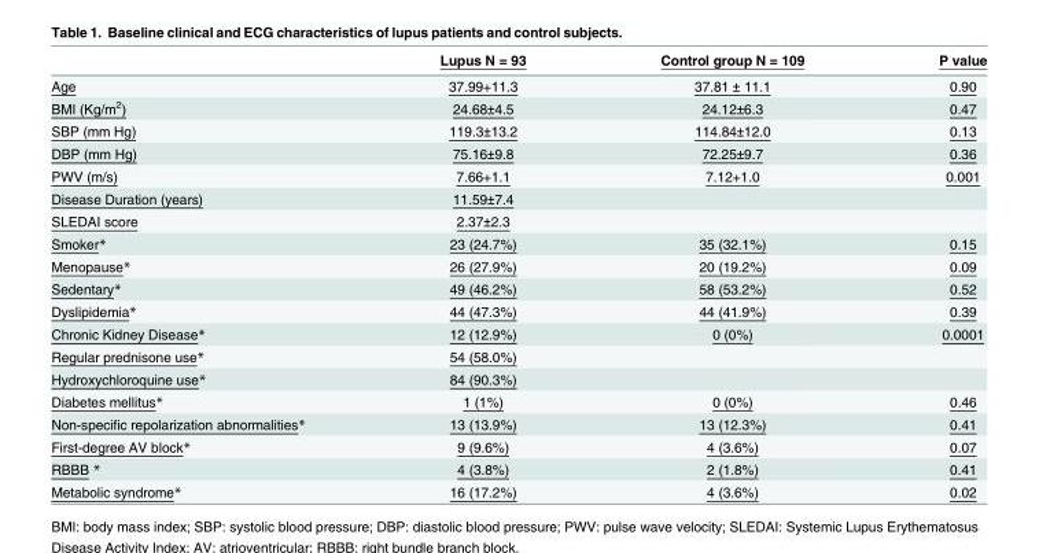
<table><thead><tr><td></td><td>Lupus N = 93</td><td>Control group N = 109</td><td>P value</td></tr></thead><tbody><tr><td>Age</td><td>37.99+11.3</td><td>37.81 ± 11.1</td><td>0.90</td></tr><tr><td>BMI (Kg/m<sup>2</sup>)</td><td>24.68±4.5</td><td>24.12±6.3</td><td>0.47</td></tr><tr><td>SBP (mm Hg)</td><td>119.3±13.2</td><td>114.84±12.0</td><td>0.13</td></tr><tr><td>DBP (mm Hg)</td><td>75.16±9.8</td><td>72.25±9.7</td><td>0.36</td></tr><tr><td>PWV (m/s)</td><td>7.66+1.1</td><td>7.12+1.0</td><td>0.001</td></tr><tr><td>Disease Duration (years)</td><td>11.59±7.4</td><td></td><td></td></tr><tr><td>SLEDAI score</td><td>2.37±2.3</td><td></td><td></td></tr><tr><td>Smoker*</td><td>23 (24.7%)</td><td>35 (32.1%)</td><td>0.15</td></tr><tr><td>Menopause*</td><td>26 (27.9%)</td><td>20 (19.2%)</td><td>0.09</td></tr><tr><td>Sedentary*</td><td>49 (46.2%)</td><td>58 (53.2%)</td><td>0.52</td></tr><tr><td>Dyslipidemia*</td><td>44 (47.3%)</td><td>44 (41.9%)</td><td>0.39</td></tr><tr><td>Chronic Kidney Disease*</td><td>12 (12.9%)</td><td>0 (0%)</td><td>0.0001</td></tr><tr><td>Regular prednisone use*</td><td>54 (58.0%)</td><td></td><td></td></tr><tr><td>Hydroxychloroquine use*</td><td>84 (90.3%)</td><td></td><td></td></tr><tr><td>Diabetes mellitus*</td><td>1 (1%)</td><td>0 (0%)</td><td>0.46</td></tr><tr><td>Non-specific repolarization abnormalities*</td><td>13 (13.9%)</td><td>13 (12.3%)</td><td>0.41</td></tr><tr><td>First-degree AV block*</td><td>9 (9.6%)</td><td>4 (3.6%)</td><td>0.07</td></tr><tr><td>RBBB *</td><td>4 (3.8%)</td><td>2 (1.8%)</td><td>0.41</td></tr><tr><td>Metabolic syndrome*</td><td>16 (17.2%)</td><td>4 (3.6%)</td><td>0.02</td></tr></tbody></table>